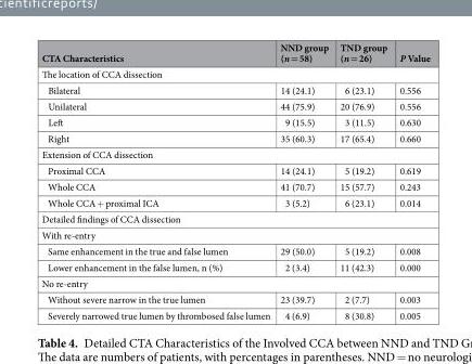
<table><thead><tr><td>CTA Characteristics</td><td>NND group (n = 58)</td><td>TND group (n = 26)</td><td>P Value</td></tr></thead><tbody><tr><td colspan="4">The location of CCA dissection</td></tr><tr><td>Bilateral</td><td>14 (24.1)</td><td>6 (23.1)</td><td>0.556</td></tr><tr><td>Unilateral</td><td>44 (75.9)</td><td>20 (76.9)</td><td>0.556</td></tr><tr><td>Left</td><td>9 (15.5)</td><td>3 (11.5)</td><td>0.630</td></tr><tr><td>Right</td><td>35 (60.3)</td><td>17 (65.4)</td><td>0.660</td></tr><tr><td colspan="4">Extension of CCA dissection</td></tr><tr><td>Proximal CCA</td><td>14 (24.1)</td><td>5 (19.2)</td><td>0.619</td></tr><tr><td>Whole CCA</td><td>41 (70.7)</td><td>15 (57.7)</td><td>0.243</td></tr><tr><td>Whole CCA + proximal ICA</td><td>3 (5.2)</td><td>6 (23.1)</td><td>0.014</td></tr><tr><td colspan="4">Detailed findings of CCA dissection</td></tr><tr><td colspan="4">With re-entry</td></tr><tr><td>Same enhancement in the true and false lumen</td><td>29 (50.0)</td><td>5 (19.2)</td><td>0.008</td></tr><tr><td>Lower enhancement in the false lumen, n (%)</td><td>2 (3.4)</td><td>11 (42.3)</td><td>0.000</td></tr><tr><td colspan="4">No re-entry</td></tr><tr><td>Without severe narrow in the true lumen</td><td>23 (39.7)</td><td>2 (7.7)</td><td>0.003</td></tr><tr><td>Severely narrowed true lumen by thrombosed false lumen</td><td>4 (6.9)</td><td>8 (30.8)</td><td>0.005</td></tr></tbody></table>